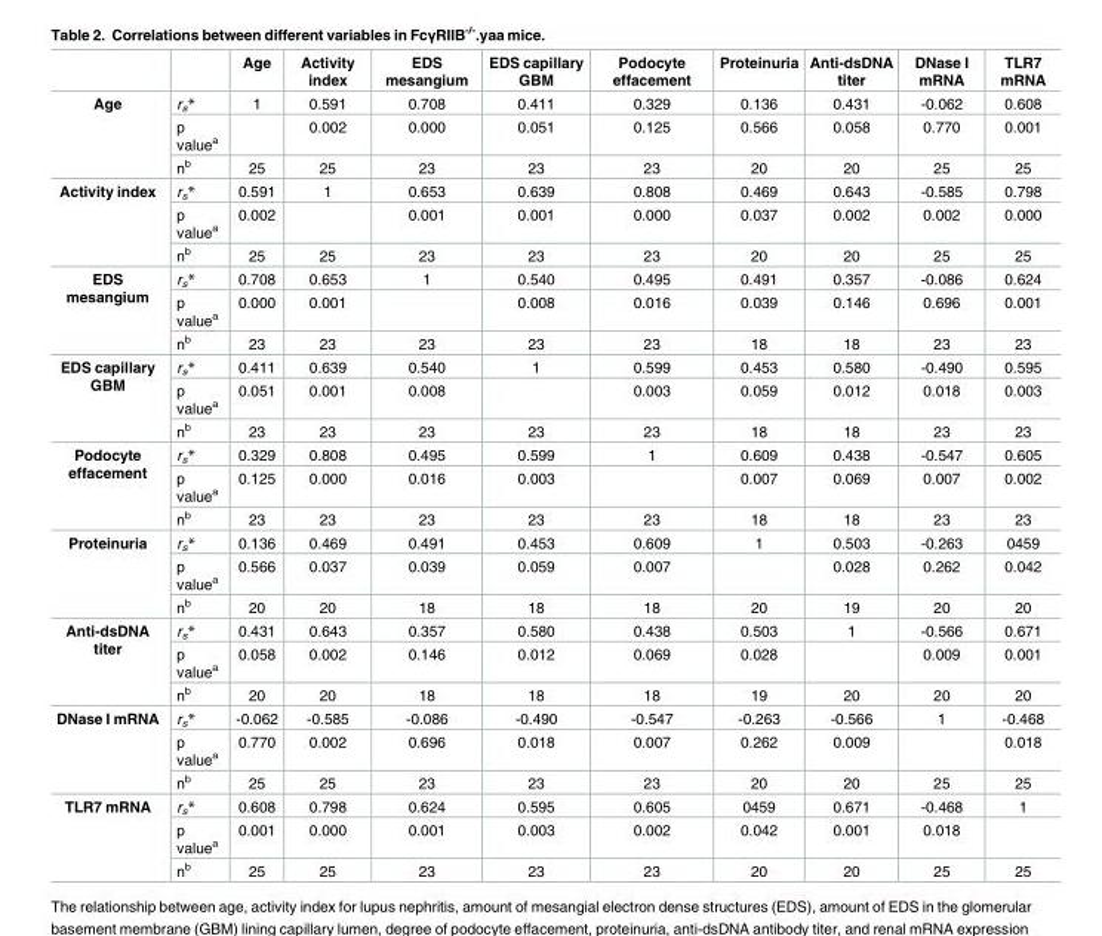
<table><thead><tr><td></td><td></td><td>Age</td><td>Activity index</td><td>EDS mesangium</td><td>EDS capillary GBM</td><td>Podocyte effacement</td><td>Proteinuria</td><td>Anti-dsDNA titer</td><td>DNase I mRNA</td><td>TLR7 mRNA</td></tr></thead><tbody><tr><td rowspan="3">Age</td><td>r<sub>s</sub>*</td><td>1</td><td>0.591</td><td>0.708</td><td>0.411</td><td>0.329</td><td>0.136</td><td>0.431</td><td>-0.062</td><td>0.608</td></tr><tr><td>p value<sup>a</sup></td><td></td><td>0.002</td><td>0.000</td><td>0.051</td><td>0.125</td><td>0.566</td><td>0.058</td><td>0.770</td><td>0.001</td></tr><tr><td>n<sup>b</sup></td><td>25</td><td>25</td><td>23</td><td>23</td><td>23</td><td>20</td><td>20</td><td>25</td><td>25</td></tr><tr><td rowspan="3">Activity index</td><td>r<sub>s</sub>*</td><td>0.591</td><td>1</td><td>0.653</td><td>0.639</td><td>0.808</td><td>0.469</td><td>0.643</td><td>-0.585</td><td>0.798</td></tr><tr><td>p value<sup>a</sup></td><td>0.002</td><td></td><td>0.001</td><td>0.001</td><td>0.000</td><td>0.037</td><td>0.002</td><td>0.002</td><td>0.000</td></tr><tr><td>n<sup>b</sup></td><td>25</td><td>25</td><td>23</td><td>23</td><td>23</td><td>20</td><td>20</td><td>25</td><td>25</td></tr><tr><td rowspan="3">EDS mesangium</td><td>r<sub>s</sub>*</td><td>0.708</td><td>0.653</td><td>1</td><td>0.540</td><td>0.495</td><td>0.491</td><td>0.357</td><td>-0.086</td><td>0.624</td></tr><tr><td>p value<sup>a</sup></td><td>0.000</td><td>0.001</td><td></td><td>0.008</td><td>0.016</td><td>0.039</td><td>0.146</td><td>0.696</td><td>0.001</td></tr><tr><td>n<sup>b</sup></td><td>23</td><td>23</td><td>23</td><td>23</td><td>23</td><td>18</td><td>18</td><td>23</td><td>23</td></tr><tr><td rowspan="3">EDS capillary GBM</td><td>r<sub>s</sub>*</td><td>0.411</td><td>0.639</td><td>0.540</td><td>1</td><td>0.599</td><td>0.453</td><td>0.580</td><td>-0.490</td><td>0.595</td></tr><tr><td>p value<sup>a</sup></td><td>0.051</td><td>0.001</td><td>0.008</td><td></td><td>0.003</td><td>0.059</td><td>0.012</td><td>0.018</td><td>0.003</td></tr><tr><td>n<sup>b</sup></td><td>23</td><td>23</td><td>23</td><td>23</td><td>23</td><td>18</td><td>18</td><td>23</td><td>23</td></tr><tr><td rowspan="3">Podocyte effacement</td><td>r<sub>s</sub>*</td><td>0.329</td><td>0.808</td><td>0.495</td><td>0.599</td><td>1</td><td>0.609</td><td>0.438</td><td>-0.547</td><td>0.605</td></tr><tr><td>p value<sup>a</sup></td><td>0.125</td><td>0.000</td><td>0.016</td><td>0.003</td><td></td><td>0.007</td><td>0.069</td><td>0.007</td><td>0.002</td></tr><tr><td>n<sup>b</sup></td><td>23</td><td>23</td><td>23</td><td>23</td><td>23</td><td>18</td><td>18</td><td>23</td><td>23</td></tr><tr><td rowspan="3">Proteinuria</td><td>r<sub>s</sub>*</td><td>0.136</td><td>0.469</td><td>0.491</td><td>0.453</td><td>0.609</td><td>1</td><td>0.503</td><td>-0.263</td><td>0459</td></tr><tr><td>p value<sup>a</sup></td><td>0.566</td><td>0.037</td><td>0.039</td><td>0.059</td><td>0.007</td><td></td><td>0.028</td><td>0.262</td><td>0.042</td></tr><tr><td>n<sup>b</sup></td><td>20</td><td>20</td><td>18</td><td>18</td><td>18</td><td>20</td><td>19</td><td>20</td><td>20</td></tr><tr><td rowspan="3">Anti-dsDNA titer</td><td>r<sub>s</sub>*</td><td>0.431</td><td>0.643</td><td>0.357</td><td>0.580</td><td>0.438</td><td>0.503</td><td>1</td><td>-0.566</td><td>0.671</td></tr><tr><td>p value<sup>a</sup></td><td>0.058</td><td>0.002</td><td>0.146</td><td>0.012</td><td>0.069</td><td>0.028</td><td></td><td>0.009</td><td>0.001</td></tr><tr><td>n<sup>b</sup></td><td>20</td><td>20</td><td>18</td><td>18</td><td>18</td><td>19</td><td>20</td><td>20</td><td>20</td></tr><tr><td rowspan="3">DNase I mRNA</td><td>r<sub>s</sub>*</td><td>-0.062</td><td>-0.585</td><td>-0.086</td><td>-0.490</td><td>-0.547</td><td>-0.263</td><td>-0.566</td><td>1</td><td>-0.468</td></tr><tr><td>p value<sup>a</sup></td><td>0.770</td><td>0.002</td><td>0.696</td><td>0.018</td><td>0.007</td><td>0.262</td><td>0.009</td><td></td><td>0.018</td></tr><tr><td>n<sup>b</sup></td><td>25</td><td>25</td><td>23</td><td>23</td><td>23</td><td>20</td><td>20</td><td>25</td><td>25</td></tr><tr><td rowspan="3">TLR7 mRNA</td><td>r<sub>s</sub>*</td><td>0.608</td><td>0.798</td><td>0.624</td><td>0.595</td><td>0.605</td><td>0459</td><td>0.671</td><td>-0.468</td><td>1</td></tr><tr><td>p value<sup>a</sup></td><td>0.001</td><td>0.000</td><td>0.001</td><td>0.003</td><td>0.002</td><td>0.042</td><td>0.001</td><td>0.018</td><td></td></tr><tr><td>n<sup>b</sup></td><td>25</td><td>25</td><td>23</td><td>23</td><td>23</td><td>20</td><td>20</td><td>25</td><td>25</td></tr></tbody></table>